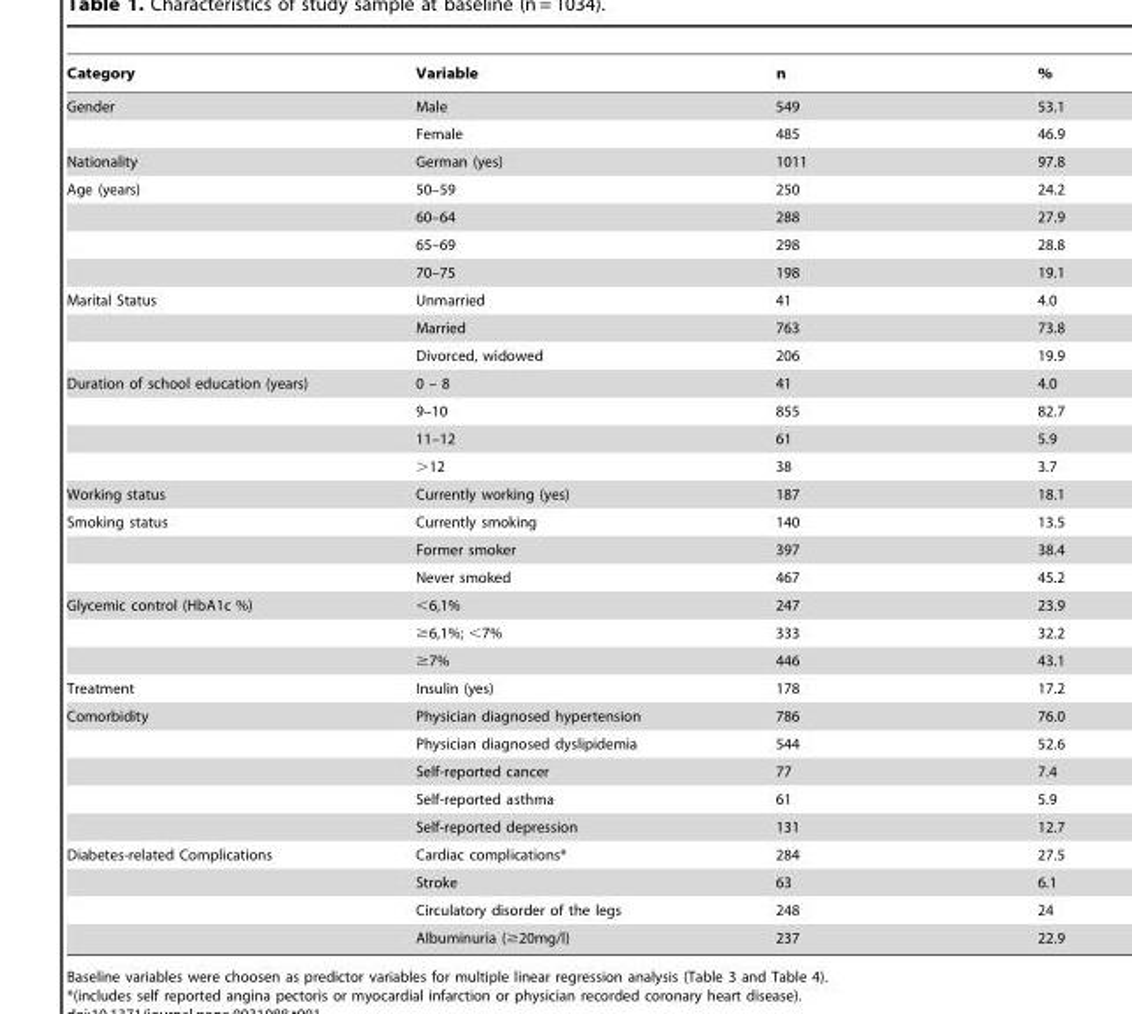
<table><thead><tr><td>Category</td><td>Variable</td><td>n</td><td>%</td></tr></thead><tbody><tr><td rowspan="2">Gender</td><td>Male</td><td>549</td><td>53.1</td></tr><tr><td>Female</td><td>485</td><td>46.9</td></tr><tr><td>Nationality</td><td>German (yes)</td><td>1011</td><td>97.8</td></tr><tr><td rowspan="4">Age (years)</td><td>50–59</td><td>250</td><td>24.2</td></tr><tr><td>60–64</td><td>288</td><td>27.9</td></tr><tr><td>65–69</td><td>298</td><td>28.8</td></tr><tr><td>70–75</td><td>198</td><td>19.1</td></tr><tr><td rowspan="3">Marital Status</td><td>Unmarried</td><td>41</td><td>4.0</td></tr><tr><td>Married</td><td>763</td><td>73.8</td></tr><tr><td>Divorced, widowed</td><td>206</td><td>19.9</td></tr><tr><td rowspan="4">Duration of school education (years)</td><td>0 – 8</td><td>41</td><td>4.0</td></tr><tr><td>9–10</td><td>855</td><td>82.7</td></tr><tr><td>11–12</td><td>61</td><td>5.9</td></tr><tr><td>&gt;12</td><td>38</td><td>3.7</td></tr><tr><td>Working status</td><td>Currently working (yes)</td><td>187</td><td>18.1</td></tr><tr><td rowspan="3">Smoking status</td><td>Currently smoking</td><td>140</td><td>13.5</td></tr><tr><td>Former smoker</td><td>397</td><td>38.4</td></tr><tr><td>Never smoked</td><td>467</td><td>45.2</td></tr><tr><td rowspan="3">Glycemic control (HbA1c %)</td><td>&lt;6,1%</td><td>247</td><td>23.9</td></tr><tr><td>≥6,1%; &lt;7%</td><td>333</td><td>32.2</td></tr><tr><td>≥7%</td><td>446</td><td>43.1</td></tr><tr><td>Treatment</td><td>Insulin (yes)</td><td>178</td><td>17.2</td></tr><tr><td rowspan="5">Comorbidity</td><td>Physician diagnosed hypertension</td><td>786</td><td>76.0</td></tr><tr><td>Physician diagnosed dyslipidemia</td><td>544</td><td>52.6</td></tr><tr><td>Self-reported cancer</td><td>77</td><td>7.4</td></tr><tr><td>Self-reported asthma</td><td>61</td><td>5.9</td></tr><tr><td>Self-reported depression</td><td>131</td><td>12.7</td></tr><tr><td rowspan="4">Diabetes-related Complications</td><td>Cardiac complications*</td><td>284</td><td>27.5</td></tr><tr><td>Stroke</td><td>63</td><td>6.1</td></tr><tr><td>Circulatory disorder of the legs</td><td>248</td><td>24</td></tr><tr><td>Albuminuria (≥20mg/l)</td><td>237</td><td>22.9</td></tr></tbody></table>